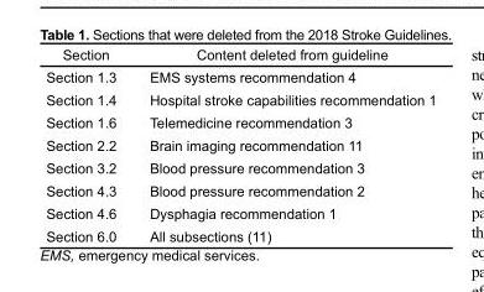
<table><thead><tr><td>Section</td><td>Content deleted from guideline</td></tr></thead><tbody><tr><td>Section 1.3</td><td>EMS systems recommendation 4</td></tr><tr><td>Section 1.4</td><td>Hospital stroke capabilities recommendation 1</td></tr><tr><td>Section 1.6</td><td>Telemedicine recommendation 3</td></tr><tr><td>Section 2.2</td><td>Brain imaging recommendation 11</td></tr><tr><td>Section 3.2</td><td>Blood pressure recommendation 3</td></tr><tr><td>Section 4.3</td><td>Blood pressure recommendation 2</td></tr><tr><td>Section 4.6</td><td>Dysphagia recommendation 1</td></tr><tr><td>Section 6.0</td><td>All subsections (11)</td></tr></tbody></table>